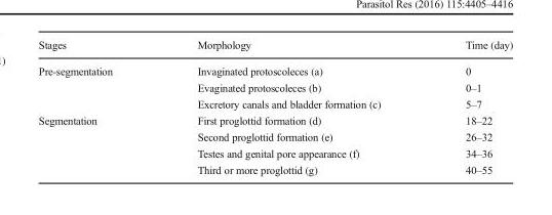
<table><thead><tr><td>Stages</td><td>Morphology</td><td>Time (day)</td></tr></thead><tbody><tr><td rowspan="3">Pre-segmentation</td><td>Invaginated protoscoleces (a)</td><td>0</td></tr><tr><td>Evaginated protoscoleces (b)</td><td>0–1</td></tr><tr><td>Excretory canals and bladder formation (c)</td><td>5–7</td></tr><tr><td rowspan="4">Segmentation</td><td>First proglottid formation (d)</td><td>18–22</td></tr><tr><td>Second proglottid formation (e)</td><td>26–32</td></tr><tr><td>Testes and genital pore appearance (f)</td><td>34–36</td></tr><tr><td>Third or more proglottid (g)</td><td>40–55</td></tr></tbody></table>